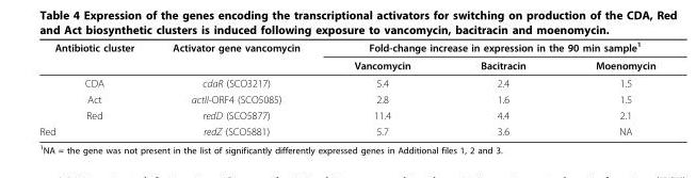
<table><thead><tr><td rowspan="2">Antibiotic cluster</td><td rowspan="2">Activator gene vancomycin</td><td colspan="3">Fold-change increase in expression in the 90 min sample<sup>1</sup></td></tr><tr><td>Vancomycin</td><td>Bacitracin</td><td>Moenomycin</td></tr></thead><tbody><tr><td>CDA</td><td>cdaR (SCO3217)</td><td>5.4</td><td>2.4</td><td>1.5</td></tr><tr><td>Act</td><td>actII-ORF4 (SCO5085)</td><td>2.8</td><td>1.6</td><td>1.5</td></tr><tr><td>Red</td><td>redD (SCO5877)</td><td>11.4</td><td>4.4</td><td>2.1</td></tr><tr><td>Red</td><td>redZ (SCO5881)</td><td>5.7</td><td>3.6</td><td>NA</td></tr></tbody></table>